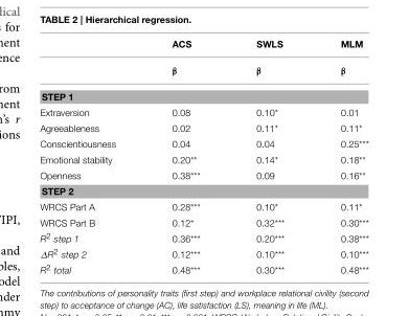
<table><thead><tr><td></td><td>ACS</td><td>SWLS</td><td>MLM</td></tr></thead><tbody><tr><td></td><td>β</td><td>β</td><td>β</td></tr><tr><td colspan="4">STEP 1</td></tr><tr><td>Extraversion</td><td>0.08</td><td>0.10*</td><td>0.01</td></tr><tr><td>Agreeableness</td><td>0.02</td><td>0.11*</td><td>0.11*</td></tr><tr><td>Conscientiousness</td><td>0.04</td><td>0.04</td><td>0.25***</td></tr><tr><td>Emotional stability</td><td>0.20**</td><td>0.14*</td><td>0.18**</td></tr><tr><td>Openness</td><td>0.38***</td><td>0.09</td><td>0.16**</td></tr><tr><td colspan="4">STEP 2</td></tr><tr><td>WRCS Part A</td><td>0.28***</td><td>0.10*</td><td>0.11*</td></tr><tr><td>WRCS Part B</td><td>0.12*</td><td>0.32***</td><td>0.30***</td></tr><tr><td>R<sup>2</sup> step 1</td><td>0.36***</td><td>0.20***</td><td>0.38***</td></tr><tr><td>∆R2 step 2</td><td>0.12***</td><td>0.10***</td><td>0.10***</td></tr><tr><td>R<sup>2</sup> total</td><td>0.48***</td><td>0.30***</td><td>0.48***</td></tr></tbody></table>